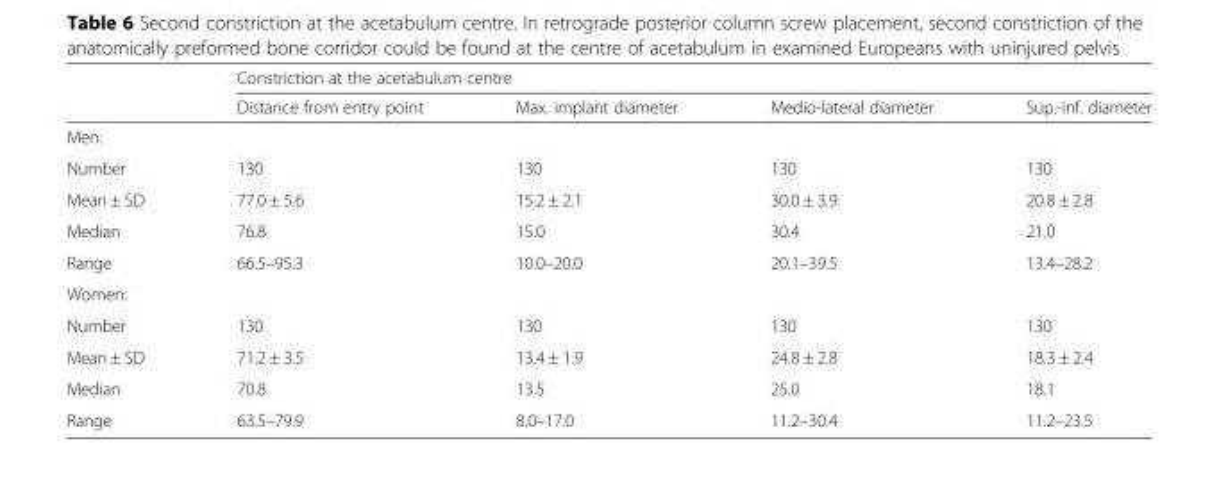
<table><thead><tr><td rowspan="2"></td><td colspan="4">Constriction at the acetabulum centre</td></tr><tr><td>Distance from entry point</td><td>Max. implant diameter</td><td>Medio-lateral diameter</td><td>Sup.-inf. diameter</td></tr></thead><tbody><tr><td colspan="5">Men:</td></tr><tr><td>Number</td><td>130</td><td>130</td><td>130</td><td>130</td></tr><tr><td>Mean ± SD</td><td>77.0 ± 5.6</td><td>15.2 ± 2.1</td><td>30.0 ± 3.9</td><td>20.8 ± 2.8</td></tr><tr><td>Median</td><td>76.8</td><td>15.0</td><td>30.4</td><td>21.0</td></tr><tr><td>Range</td><td>66.5–95.3</td><td>10.0–20.0</td><td>20.1–39.5</td><td>13.4–28.2</td></tr><tr><td colspan="5">Women:</td></tr><tr><td>Number</td><td>130</td><td>130</td><td>130</td><td>130</td></tr><tr><td>Mean ± SD</td><td>71.2 ± 3.5</td><td>13.4 ± 1.9</td><td>24.8 ± 2.8</td><td>18.3 ± 2.4</td></tr><tr><td>Median</td><td>70.8</td><td>13.5</td><td>25.0</td><td>18.1</td></tr><tr><td>Range</td><td>63.5–79.9</td><td>8.0–17.0</td><td>11.2–30.4</td><td>11.2–23.5</td></tr></tbody></table>